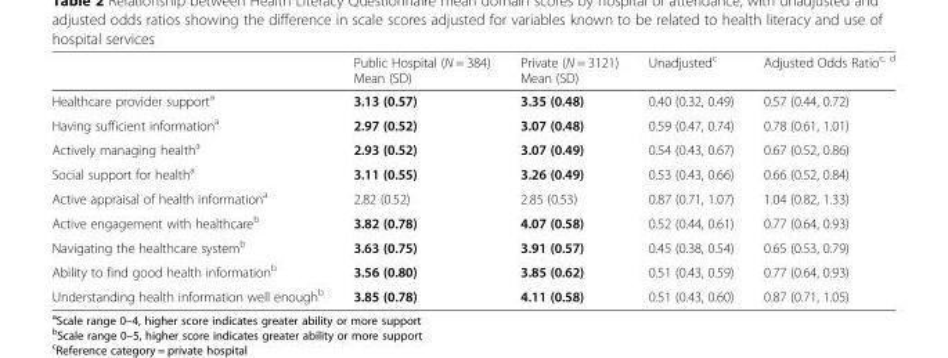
<table><thead><tr><td></td><td>Public Hospital (N = 384) Mean (SD)</td><td>Private (N = 3121) Mean (SD)</td><td>Unadjusted<sup>c</sup></td><td>Adjusted Odds Ratio<sup>c, d</sup></td></tr></thead><tbody><tr><td>Healthcare provider support<sup>a</sup></td><td>3.13 (0.57)</td><td>3.35 (0.48)</td><td>0.40 (0.32, 0.49)</td><td>0.57 (0.44, 0.72)</td></tr><tr><td>Having sufficient information<sup>a</sup></td><td>2.97 (0.52)</td><td>3.07 (0.48)</td><td>0.59 (0.47, 0.74)</td><td>0.78 (0.61, 1.01)</td></tr><tr><td>Actively managing health<sup>a</sup></td><td>2.93 (0.52)</td><td>3.07 (0.49)</td><td>0.54 (0.43, 0.67)</td><td>0.67 (0.52, 0.86)</td></tr><tr><td>Social support for health<sup>a</sup></td><td>3.11 (0.55)</td><td>3.26 (0.49)</td><td>0.53 (0.43, 0.66)</td><td>0.66 (0.52, 0.84)</td></tr><tr><td>Active appraisal of health information<sup>a</sup></td><td>2.82 (0.52)</td><td>2.85 (0.53)</td><td>0.87 (0.71, 1.07)</td><td>1.04 (0.82, 1.33)</td></tr><tr><td>Active engagement with healthcare<sup>b</sup></td><td>3.82 (0.78)</td><td>4.07 (0.58)</td><td>0.52 (0.44, 0.61)</td><td>0.77 (0.64, 0.93)</td></tr><tr><td>Navigating the healthcare system<sup>b</sup></td><td>3.63 (0.75)</td><td>3.91 (0.57)</td><td>0.45 (0.38, 0.54)</td><td>0.65 (0.53, 0.79)</td></tr><tr><td>Ability to find good health information<sup>b</sup></td><td>3.56 (0.80)</td><td>3.85 (0.62)</td><td>0.51 (0.43, 0.59)</td><td>0.77 (0.64, 0.93)</td></tr><tr><td>Understanding health information well enough<sup>b</sup></td><td>3.85 (0.78)</td><td>4.11 (0.58)</td><td>0.51 (0.43, 0.60)</td><td>0.87 (0.71, 1.05)</td></tr></tbody></table>